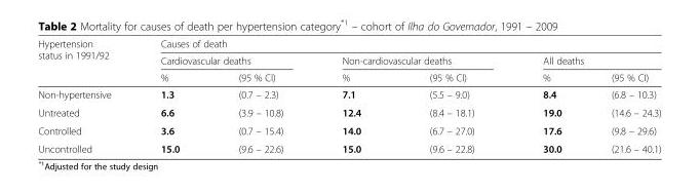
<table><thead><tr><td rowspan="3">Hypertension status in 1991/92</td><td colspan="6">Causes of death</td></tr><tr><td colspan="2">Cardiovascular deaths</td><td colspan="2">Non-cardiovascular deaths</td><td colspan="2">All deaths</td></tr><tr><td>%</td><td>(95 % CI)</td><td>%</td><td>(95 % CI)</td><td>%</td><td>(95 % CI)</td></tr></thead><tbody><tr><td>Non-hypertensive</td><td>1.3</td><td>(0.7 – 2.3)</td><td>7.1</td><td>(5.5 – 9.0)</td><td>8.4</td><td>(6.8 – 10.3)</td></tr><tr><td>Untreated</td><td>6.6</td><td>(3.9 – 10.8)</td><td>12.4</td><td>(8.4 – 18.1)</td><td>19.0</td><td>(14.6 – 24.3)</td></tr><tr><td>Controlled</td><td>3.6</td><td>(0.7 – 15.4)</td><td>14.0</td><td>(6.7 – 27.0)</td><td>17.6</td><td>(9.8 – 29.6)</td></tr><tr><td>Uncontrolled</td><td>15.0</td><td>(9.6 – 22.6)</td><td>15.0</td><td>(9.6 – 22.8)</td><td>30.0</td><td>(21.6 – 40.1)</td></tr></tbody></table>